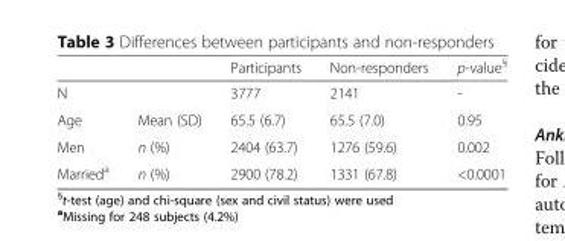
<table><thead><tr><td></td><td></td><td>Participants</td><td>Non-responders</td><td>p-value<sup>§</sup></td></tr></thead><tbody><tr><td>N</td><td></td><td>3777</td><td>2141</td><td>-</td></tr><tr><td>Age</td><td>Mean (SD)</td><td>65.5 (6.7)</td><td>65.5 (7.0)</td><td>0.95</td></tr><tr><td>Men</td><td>n (%)</td><td>2404 (63.7)</td><td>1276 (59.6)</td><td>0.002</td></tr><tr><td>Married<sup>a</sup></td><td>n (%)</td><td>2900 (78.2)</td><td>1331 (67.8)</td><td>&lt;0.0001</td></tr></tbody></table>